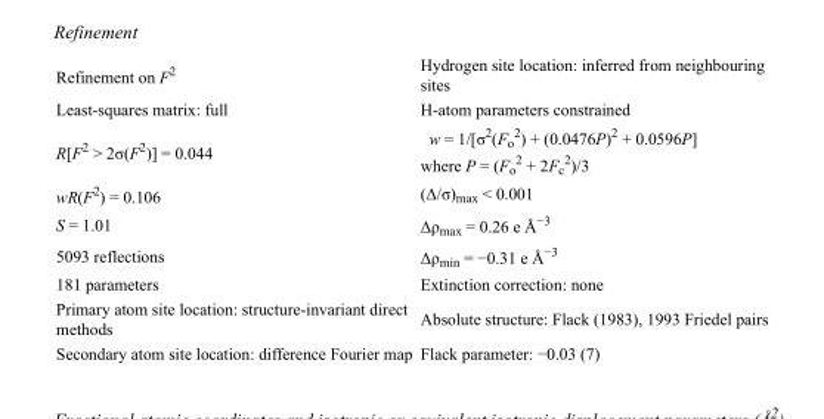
<table><tbody><tr><td>Refinement on F<sup>2</sup></td><td>Hydrogen site location: inferred from neighbouring sites</td></tr><tr><td>Least-squares matrix: full</td><td>H-atom parameters constrained</td></tr><tr><td>R[F<sup>2</sup> &gt; 2σ(F<sup>2</sup>)] = 0.044</td><td>w = 1/[σ<sup>2</sup>(F<sub>o</sub> <sup>2</sup>) + (0.0476P)<sup>2</sup> + 0.0596P] where P = (F<sub>o</sub> <sup>2</sup> + 2F<sub>c</sub> <sup>2</sup>)/3</td></tr><tr><td>wR(F<sup>2</sup>) = 0.106</td><td>(Δ/σ)<sub>max</sub> &lt; 0.001</td></tr><tr><td>S = 1.01</td><td>Δρ<sub>max</sub> = 0.26 e Å<sup>−3</sup></td></tr><tr><td>5093 reflections</td><td>Δρ<sub>min</sub> = −0.31 e Å<sup>−3</sup></td></tr><tr><td>181 parameters</td><td>Extinction correction: none</td></tr><tr><td>Primary atom site location: structure-invariant direct methods</td><td>Absolute structure: Flack (1983), 1993 Friedel pairs</td></tr><tr><td>Secondary atom site location: difference Fourier map</td><td>Flack parameter: −0.03 (7)</td></tr></tbody></table>